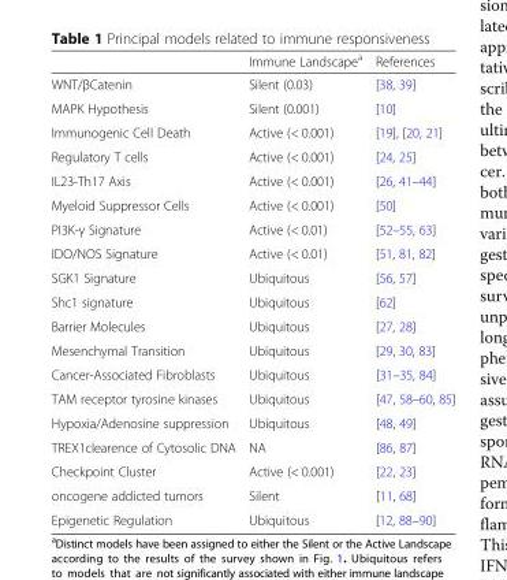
<table><thead><tr><td></td><td>Immune Landscape<sup>a</sup></td><td>References</td></tr></thead><tbody><tr><td>WNT/βCatenin</td><td>Silent (0.03)</td><td>[38, 39]</td></tr><tr><td>MAPK Hypothesis</td><td>Silent (0.001)</td><td>[10]</td></tr><tr><td>Immunogenic Cell Death</td><td>Active (&lt; 0.001)</td><td>[19], [20, 21]</td></tr><tr><td>Regulatory T cells</td><td>Active (&lt; 0.001)</td><td>[24, 25]</td></tr><tr><td>IL23-Th17 Axis</td><td>Active (&lt; 0.001)</td><td>[26, 41–44]</td></tr><tr><td>Myeloid Suppressor Cells</td><td>Active (&lt; 0.001)</td><td>[50]</td></tr><tr><td>PI3K-γ Signature</td><td>Active (&lt; 0.01)</td><td>[52–55, 63]</td></tr><tr><td>IDO/NOS Signature</td><td>Active (&lt; 0.01)</td><td>[51, 81, 82]</td></tr><tr><td>SGK1 Signature</td><td>Ubiquitous</td><td>[56, 57]</td></tr><tr><td>Shc1 signature</td><td>Ubiquitous</td><td>[62]</td></tr><tr><td>Barrier Molecules</td><td>Ubiquitous</td><td>[27, 28]</td></tr><tr><td>Mesenchymal Transition</td><td>Ubiquitous</td><td>[29, 30, 83]</td></tr><tr><td>Cancer-Associated Fibroblasts</td><td>Ubiquitous</td><td>[31–35, 84]</td></tr><tr><td>TAM receptor tyrosine kinases</td><td>Ubiquitous</td><td>[47, 58–60, 85]</td></tr><tr><td>Hypoxia/Adenosine suppression</td><td>Ubiquitous</td><td>[48, 49]</td></tr><tr><td>TREX1clearence of Cytosolic DNA</td><td>NA</td><td>[86, 87]</td></tr><tr><td>Checkpoint Cluster</td><td>Active (&lt; 0.001)</td><td>[22, 23]</td></tr><tr><td>oncogene addicted tumors</td><td>Silent</td><td>[11, 68]</td></tr><tr><td>Epigenetic Regulation</td><td>Ubiquitous</td><td>[12, 88–90]</td></tr></tbody></table>